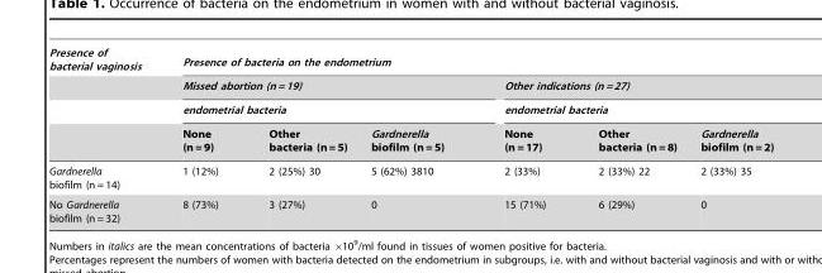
<table><thead><tr><td rowspan="4">Presence of bacterial vaginosis</td><td colspan="6">Presence of bacteria on the endometrium</td></tr><tr><td rowspan="2" colspan="3">Missed abortion (n = 19) endometrial bacteria</td><td rowspan="2" colspan="3">Other indications (n = 27) endometrial bacteria</td></tr><tr></tr><tr><td>None (n = 9)</td><td>Other bacteria (n = 5)</td><td>Gardnerella biofilm (n = 5)</td><td>None (n = 17)</td><td>Other bacteria (n = 8)</td><td>Gardnerella biofilm (n = 2)</td></tr></thead><tbody><tr><td>Gardnerella biofilm (n = 14)</td><td>1 (12%)</td><td>2 (25%) 30</td><td>5 (62%) 3810</td><td>2 (33%)</td><td>2 (33%) 22</td><td>2 (33%) 35</td></tr><tr><td>No Gardnerella biofilm (n = 32)</td><td>8 (73%)</td><td>3 (27%)</td><td>0</td><td>15 (71%)</td><td>6 (29%)</td><td>0</td></tr></tbody></table>